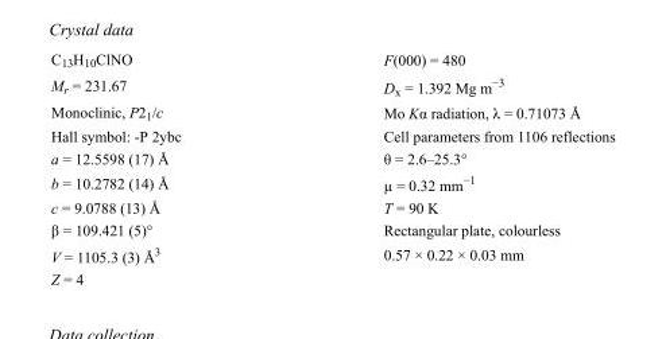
<table><tbody><tr><td>C<sub>13</sub>H<sub>10</sub>ClNO</td><td>F(000) = 480</td></tr><tr><td>M<sub>r</sub> = 231.67</td><td>D<sub>x</sub> = 1.392 Mg m<sup>−3</sup></td></tr><tr><td>Monoclinic, P2<sub>1</sub>/c</td><td>Mo Kα radiation, λ = 0.71073 Å</td></tr><tr><td>Hall symbol: -P 2ybc</td><td>Cell parameters from 1106 reflections</td></tr><tr><td>a = 12.5598 (17) Å</td><td>θ = 2.6–25.3°</td></tr><tr><td>b = 10.2782 (14) Å</td><td>µ = 0.32 mm<sup>−1</sup></td></tr><tr><td>c = 9.0788 (13) Å</td><td>T = 90 K</td></tr><tr><td>β = 109.421 (5)°</td><td>Rectangular plate, colourless</td></tr><tr><td>V = 1105.3 (3) Å<sup>3</sup></td><td>0.57 × 0.22 × 0.03 mm</td></tr><tr><td>Z = 4</td><td></td></tr></tbody></table>